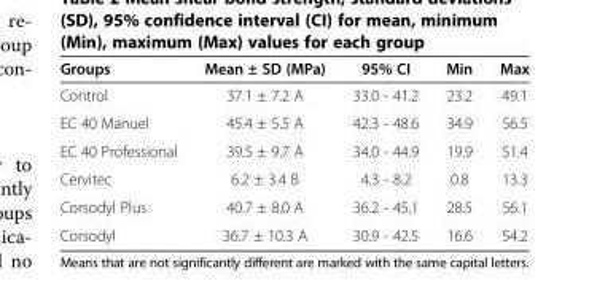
<table><thead><tr><td>Groups</td><td>Mean ± SD (MPa)</td><td>95% CI</td><td>Min</td><td>Max</td></tr></thead><tbody><tr><td>Control</td><td>37.1 ± 7.2 A</td><td>33.0 - 41.2</td><td>23.2</td><td>49.1</td></tr><tr><td>EC 40 Manuel</td><td>45.4 ± 5.5 A</td><td>42.3 - 48.6</td><td>34.9</td><td>56.5</td></tr><tr><td>EC 40 Professional</td><td>39.5 ± 9.7 A</td><td>34.0 - 44.9</td><td>19.9</td><td>51.4</td></tr><tr><td>Cervitec</td><td>6.2 ± 3.4 B</td><td>4.3 - 8.2</td><td>0.8</td><td>13.3</td></tr><tr><td>Corsodyl Plus</td><td>40.7 ± 8.0 A</td><td>36.2 - 45.1</td><td>28.5</td><td>56.1</td></tr><tr><td>Corsodyl</td><td>36.7 ± 10.3 A</td><td>30.9 - 42.5</td><td>16.6</td><td>54.2</td></tr></tbody></table>